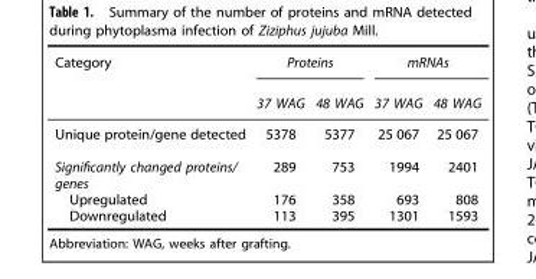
<table><thead><tr><td rowspan="2">Category</td><td colspan="2">Proteins</td><td colspan="2">mRNAs</td></tr><tr><td>37 WAG</td><td>48 WAG</td><td>37 WAG</td><td>48 WAG</td></tr></thead><tbody><tr><td>Unique protein/gene detected</td><td>5378</td><td>5377</td><td>25 067</td><td>25 067</td></tr><tr><td>Significantly changed proteins/ genes</td><td>289</td><td>753</td><td>1994</td><td>2401</td></tr><tr><td>Upregulated</td><td>176</td><td>358</td><td>693</td><td>808</td></tr><tr><td>Downregulated</td><td>113</td><td>395</td><td>1301</td><td>1593</td></tr></tbody></table>